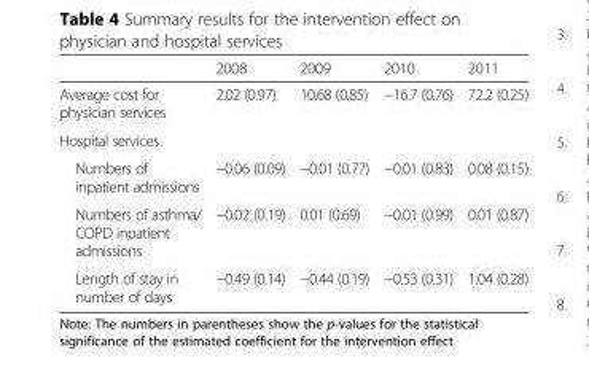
<table><thead><tr><td></td><td>2008</td><td>2009</td><td>2010</td><td>2011</td></tr></thead><tbody><tr><td>Average cost for physician services</td><td>2.02 (0.97)</td><td>10.68 (0.85)</td><td>−16.7 (0.76)</td><td>72.2 (0.25)</td></tr><tr><td colspan="5">Hospital services</td></tr><tr><td>Numbers of inpatient admissions</td><td>−0.06 (0.09)</td><td>−0.01 (0.77)</td><td>−0.01 (0.83)</td><td>0.08 (0.15)</td></tr><tr><td>Numbers of asthma/ COPD inpatient admissions</td><td>−0.02 (0.19)</td><td>0.01 (0.69)</td><td>−0.01 (0.99)</td><td>0.01 (0.87)</td></tr><tr><td>Length of stay in number of days</td><td>−0.49 (0.14)</td><td>−0.44 (0.19)</td><td>−0.53 (0.31)</td><td>1.04 (0.28)</td></tr></tbody></table>